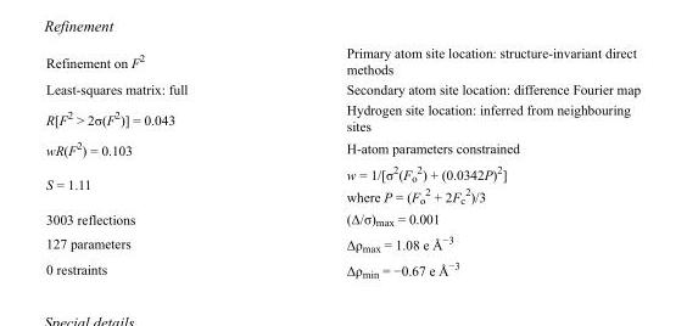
<table><tbody><tr><td>Refinement on F<sup>2</sup></td><td>Primary atom site location: structure-invariant direct methods</td></tr><tr><td>Least-squares matrix: full</td><td>Secondary atom site location: difference Fourier map</td></tr><tr><td>R[F<sup>2</sup> &gt; 2σ(F<sup>2</sup>)] = 0.043</td><td>Hydrogen site location: inferred from neighbouring sites</td></tr><tr><td>wR(F<sup>2</sup>) = 0.103</td><td>H-atom parameters constrained</td></tr><tr><td>S = 1.11</td><td>w = 1/[σ<sup>2</sup>(F<sub>o</sub> <sup>2</sup>) + (0.0342P)<sup>2</sup>] where P = (F<sub>o</sub> <sup>2</sup> + 2F<sub>c</sub> <sup>2</sup>)/3</td></tr><tr><td>3003 reflections</td><td>(Δ/σ)<sub>max</sub> = 0.001</td></tr><tr><td>127 parameters</td><td>Δρ<sub>max</sub> = 1.08 e Å<sup>−3</sup></td></tr><tr><td>0 restraints</td><td>Δρ<sub>min</sub> = −0.67 e Å<sup>−3</sup></td></tr></tbody></table>